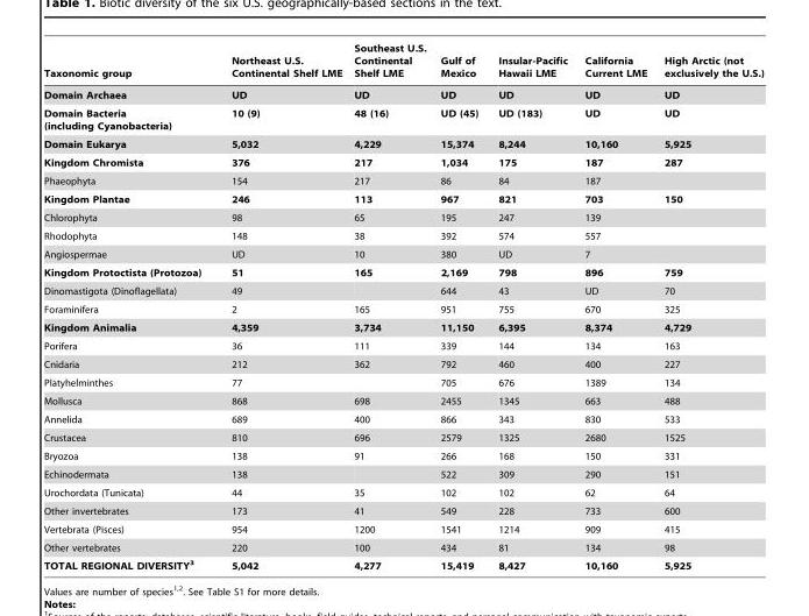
<table><thead><tr><td>Taxonomic group</td><td>Northeast U.S. Continental Shelf LME</td><td>Southeast U.S. Continental Shelf LME</td><td>Gulf of Mexico</td><td>Insular-Pacific Hawaii LME</td><td>California Current LME</td><td>High Arctic (not exclusively the U.S.)</td></tr></thead><tbody><tr><td>Domain Archaea</td><td>UD</td><td>UD</td><td>UD</td><td>UD</td><td>UD</td><td>UD</td></tr><tr><td>Domain Bacteria (including Cyanobacteria)</td><td>10 (9)</td><td>48 (16)</td><td>UD (45)</td><td>UD (183)</td><td>UD</td><td>UD</td></tr><tr><td>Domain Eukarya</td><td>5,032</td><td>4,229</td><td>15,374</td><td>8,244</td><td>10,160</td><td>5,925</td></tr><tr><td>Kingdom Chromista</td><td>376</td><td>217</td><td>1,034</td><td>175</td><td>187</td><td>287</td></tr><tr><td>Phaeophyta</td><td>154</td><td>217</td><td>86</td><td>84</td><td>187</td><td></td></tr><tr><td>Kingdom Plantae</td><td>246</td><td>113</td><td>967</td><td>821</td><td>703</td><td>150</td></tr><tr><td>Chlorophyta</td><td>98</td><td>65</td><td>195</td><td>247</td><td>139</td><td></td></tr><tr><td>Rhodophyta</td><td>148</td><td>38</td><td>392</td><td>574</td><td>557</td><td></td></tr><tr><td>Angiospermae</td><td>UD</td><td>10</td><td>380</td><td>UD</td><td>7</td><td></td></tr><tr><td>Kingdom Protoctista (Protozoa)</td><td>51</td><td>165</td><td>2,169</td><td>798</td><td>896</td><td>759</td></tr><tr><td>Dinomastigota (Dinoflagellata)</td><td>49</td><td></td><td>644</td><td>43</td><td>UD</td><td>70</td></tr><tr><td>Foraminifera</td><td>2</td><td>165</td><td>951</td><td>755</td><td>670</td><td>325</td></tr><tr><td>Kingdom Animalia</td><td>4,359</td><td>3,734</td><td>11,150</td><td>6,395</td><td>8,374</td><td>4,729</td></tr><tr><td>Porifera</td><td>36</td><td>111</td><td>339</td><td>144</td><td>134</td><td>163</td></tr><tr><td>Cnidaria</td><td>212</td><td>362</td><td>792</td><td>460</td><td>400</td><td>227</td></tr><tr><td>Platyhelminthes</td><td>77</td><td></td><td>705</td><td>676</td><td>1389</td><td>134</td></tr><tr><td>Mollusca</td><td>868</td><td>698</td><td>2455</td><td>1345</td><td>663</td><td>488</td></tr><tr><td>Annelida</td><td>689</td><td>400</td><td>866</td><td>343</td><td>830</td><td>533</td></tr><tr><td>Crustacea</td><td>810</td><td>696</td><td>2579</td><td>1325</td><td>2680</td><td>1525</td></tr><tr><td>Bryozoa</td><td>138</td><td>91</td><td>266</td><td>168</td><td>150</td><td>331</td></tr><tr><td>Echinodermata</td><td>138</td><td></td><td>522</td><td>309</td><td>290</td><td>151</td></tr><tr><td>Urochordata (Tunicata)</td><td>44</td><td>35</td><td>102</td><td>102</td><td>62</td><td>64</td></tr><tr><td>Other invertebrates</td><td>173</td><td>41</td><td>549</td><td>228</td><td>733</td><td>600</td></tr><tr><td>Vertebrata (Pisces)</td><td>954</td><td>1200</td><td>1541</td><td>1214</td><td>909</td><td>415</td></tr><tr><td>Other vertebrates</td><td>220</td><td>100</td><td>434</td><td>81</td><td>134</td><td>98</td></tr><tr><td>TOTAL REGIONAL DIVERSITY3</td><td>5,042</td><td>4,277</td><td>15,419</td><td>8,427</td><td>10,160</td><td>5,925</td></tr></tbody></table>